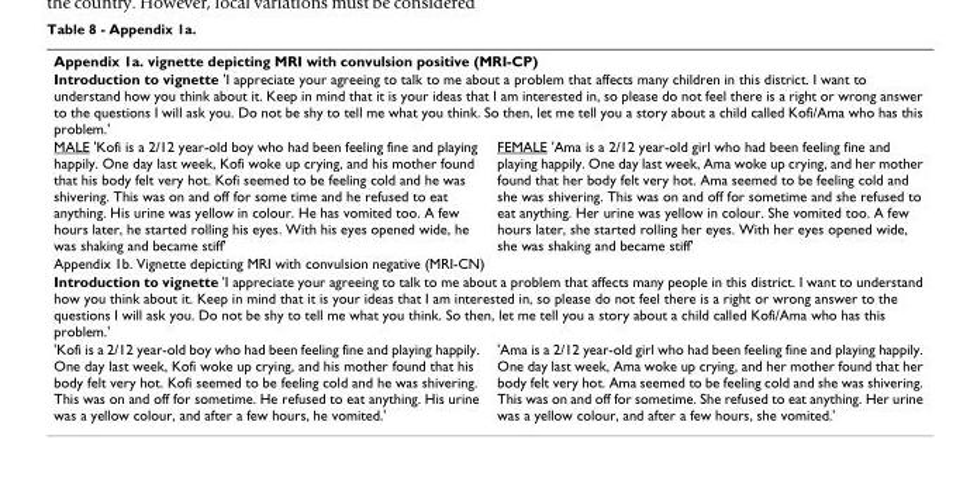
<table><tbody><tr><td colspan="2">Appendix 1a. vignette depicting MRI with convulsion positive (MRI-CP)</td></tr><tr><td colspan="2">Introduction to vignette &#x27;I appreciate your agreeing to talk to me about a problem that affects many children in this district. I want to understand how you think about it. Keep in mind that it is your ideas that I am interested in, so please do not feel there is a right or wrong answer to the questions I will ask you. Do not be shy to tell me what you think. So then, let me tell you a story about a child called Kofi/Ama who has this problem.&#x27;</td></tr><tr><td>MALE &#x27;Kofi is a 2/12 year-old boy who had been feeling fine and playing happily. One day last week, Kofi woke up crying, and his mother found that his body felt very hot. Kofi seemed to be feeling cold and he was shivering. This was on and off for some time and he refused to eat anything. His urine was yellow in colour. He has vomited too. A few hours later, he started rolling his eyes. With his eyes opened wide, he was shaking and became stiff&#x27;</td><td>FEMALE &#x27;Ama is a 2/12 year-old girl who had been feeling fine and playing happily. One day last week, Ama woke up crying, and her mother found that her body felt very hot. Ama seemed to be feeling cold and she was shivering. This was on and off for sometime and she refused to eat anything. Her urine was yellow in colour. She vomited too. A few hours later, she started rolling her eyes. With her eyes opened wide, she was shaking and became stiff&#x27;</td></tr><tr><td colspan="2">Appendix 1b. Vignette depicting MRI with convulsion negative (MRI-CN)</td></tr><tr><td colspan="2">Introduction to vignette &#x27;I appreciate your agreeing to talk to me about a problem that affects many people in this district. I want to understand how you think about it. Keep in mind that it is your ideas that I am interested in, so please do not feel there is a right or wrong answer to the questions I will ask you. Do not be shy to tell me what you think. So then, let me tell you a story about a child called Kofi/Ama who has this problem.&#x27;</td></tr><tr><td>&#x27;Kofi is a 2/12 year-old boy who had been feeling fine and playing happily. One day last week, Kofi woke up crying, and his mother found that his body felt very hot. Kofi seemed to be feeling cold and he was shivering. This was on and off for sometime. He refused to eat anything. His urine was a yellow colour, and after a few hours, he vomited.&#x27;</td><td>&#x27;Ama is a 2/12 year-old girl who had been feeling fine and playing happily. One day last week, Ama woke up crying, and her mother found that her body felt very hot. Ama seemed to be feeling cold and she was shivering. This was on and off for sometime. She refused to eat anything. Her urine was a yellow colour, and after a few hours, she vomited.&#x27;</td></tr></tbody></table>